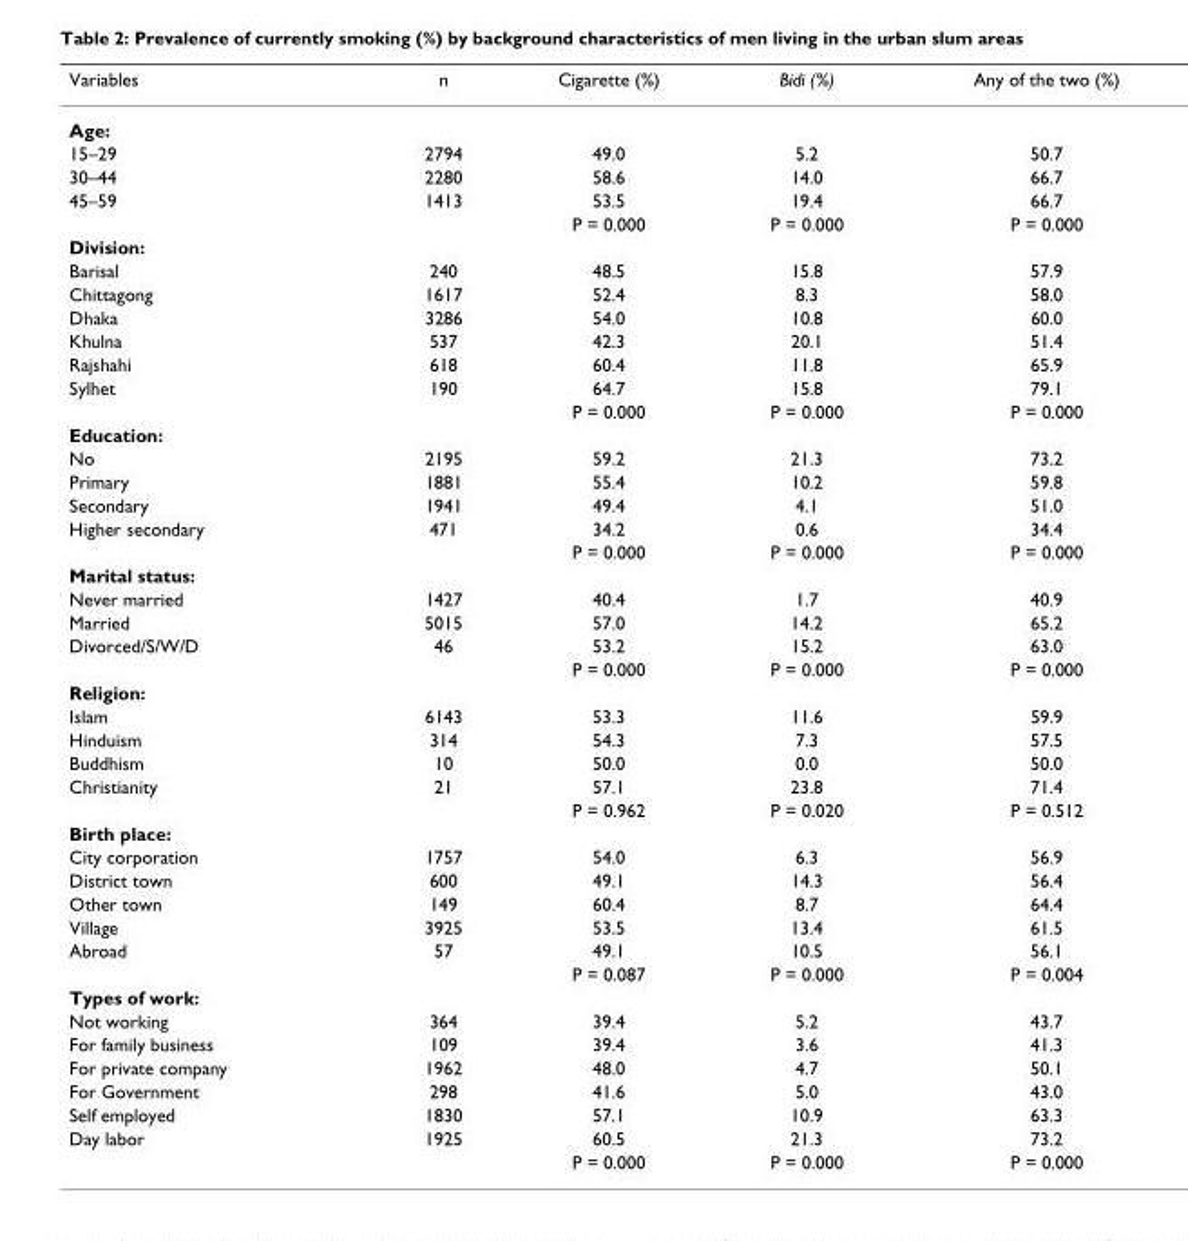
<table><thead><tr><td>Variables</td><td>n</td><td>Cigarette (%)</td><td>Bidi (%)</td><td>Any of the two (%)</td></tr></thead><tbody><tr><td colspan="5">Age:</td></tr><tr><td>15–29</td><td>2794</td><td>49.0</td><td>5.2</td><td>50.7</td></tr><tr><td>30–44</td><td>2280</td><td>58.6</td><td>14.0</td><td>66.7</td></tr><tr><td rowspan="2">45–59</td><td>1413</td><td>53.5</td><td>19.4</td><td>66.7</td></tr><tr><td></td><td>P = 0.000</td><td>P = 0.000</td><td>P = 0.000</td></tr><tr><td colspan="5">Division:</td></tr><tr><td>Barisal</td><td>240</td><td>48.5</td><td>15.8</td><td>57.9</td></tr><tr><td>Chittagong</td><td>1617</td><td>52.4</td><td>8.3</td><td>58.0</td></tr><tr><td>Dhaka</td><td>3286</td><td>54.0</td><td>10.8</td><td>60.0</td></tr><tr><td>Khulna</td><td>537</td><td>42.3</td><td>20.1</td><td>51.4</td></tr><tr><td>Rajshahi</td><td>618</td><td>60.4</td><td>11.8</td><td>65.9</td></tr><tr><td rowspan="2">Sylhet</td><td>190</td><td>64.7</td><td>15.8</td><td>79.1</td></tr><tr><td></td><td>P = 0.000</td><td>P = 0.000</td><td>P = 0.000</td></tr><tr><td colspan="5">Education:</td></tr><tr><td>No</td><td>2195</td><td>59.2</td><td>21.3</td><td>73.2</td></tr><tr><td>Primary</td><td>1881</td><td>55.4</td><td>10.2</td><td>59.8</td></tr><tr><td>Secondary</td><td>1941</td><td>49.4</td><td>4.1</td><td>51.0</td></tr><tr><td rowspan="2">Higher secondary</td><td>471</td><td>34.2</td><td>0.6</td><td>34.4</td></tr><tr><td></td><td>P = 0.000</td><td>P = 0.000</td><td>P = 0.000</td></tr><tr><td colspan="5">Marital status:</td></tr><tr><td>Never married</td><td>1427</td><td>40.4</td><td>1.7</td><td>40.9</td></tr><tr><td>Married</td><td>5015</td><td>57.0</td><td>14.2</td><td>65.2</td></tr><tr><td rowspan="2">Divorced/S/W/D</td><td>46</td><td>53.2</td><td>15.2</td><td>63.0</td></tr><tr><td></td><td>P = 0.000</td><td>P = 0.000</td><td>P = 0.000</td></tr><tr><td colspan="5">Religion:</td></tr><tr><td>Islam</td><td>6143</td><td>53.3</td><td>11.6</td><td>59.9</td></tr><tr><td>Hinduism</td><td>314</td><td>54.3</td><td>7.3</td><td>57.5</td></tr><tr><td>Buddhism</td><td>10</td><td>50.0</td><td>0.0</td><td>50.0</td></tr><tr><td rowspan="2">Christianity</td><td>21</td><td>57.1</td><td>23.8</td><td>71.4</td></tr><tr><td></td><td>P = 0.962</td><td>P = 0.020</td><td>P = 0.512</td></tr><tr><td colspan="5">Birth place:</td></tr><tr><td>City corporation</td><td>1757</td><td>54.0</td><td>6.3</td><td>56.9</td></tr><tr><td>District town</td><td>600</td><td>49.1</td><td>14.3</td><td>56.4</td></tr><tr><td>Other town</td><td>149</td><td>60.4</td><td>8.7</td><td>64.4</td></tr><tr><td>Village</td><td>3925</td><td>53.5</td><td>13.4</td><td>61.5</td></tr><tr><td rowspan="2">Abroad</td><td>57</td><td>49.1</td><td>10.5</td><td>56.1</td></tr><tr><td></td><td>P = 0.087</td><td>P = 0.000</td><td>P = 0.004</td></tr><tr><td colspan="5">Types of work:</td></tr><tr><td>Not working</td><td>364</td><td>39.4</td><td>5.2</td><td>43.7</td></tr><tr><td>For family business</td><td>109</td><td>39.4</td><td>3.6</td><td>41.3</td></tr><tr><td>For private company</td><td>1962</td><td>48.0</td><td>4.7</td><td>50.1</td></tr><tr><td>For Government</td><td>298</td><td>41.6</td><td>5.0</td><td>43.0</td></tr><tr><td>Self employed</td><td>1830</td><td>57.1</td><td>10.9</td><td>63.3</td></tr><tr><td rowspan="2">Day labor</td><td>1925</td><td>60.5</td><td>21.3</td><td>73.2</td></tr><tr><td></td><td>P = 0.000</td><td>P = 0.000</td><td>P = 0.000</td></tr></tbody></table>